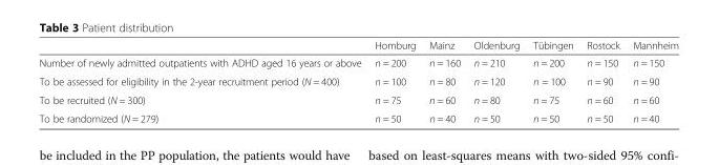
<table><thead><tr><td></td><td>Homburg</td><td>Mainz</td><td>Oldenburg</td><td>Tübingen</td><td>Rostock</td><td>Mannheim</td></tr></thead><tbody><tr><td>Number of newly admitted outpatients with ADHD aged 16 years or above</td><td>n = 200</td><td>n = 160</td><td>n = 210</td><td>n = 200</td><td>n = 150</td><td>n = 150</td></tr><tr><td>To be assessed for eligibility in the 2-year recruitment period (N = 400)</td><td>n = 100</td><td>n = 80</td><td>n = 120</td><td>n = 100</td><td>n = 90</td><td>n = 90</td></tr><tr><td>To be recruited (N = 300)</td><td>n = 75</td><td>n = 60</td><td>n = 80</td><td>n = 75</td><td>n = 60</td><td>n = 60</td></tr><tr><td>To be randomized (N = 279)</td><td>n = 50</td><td>n = 40</td><td>n = 50</td><td>n = 50</td><td>n = 50</td><td>n = 40</td></tr></tbody></table>